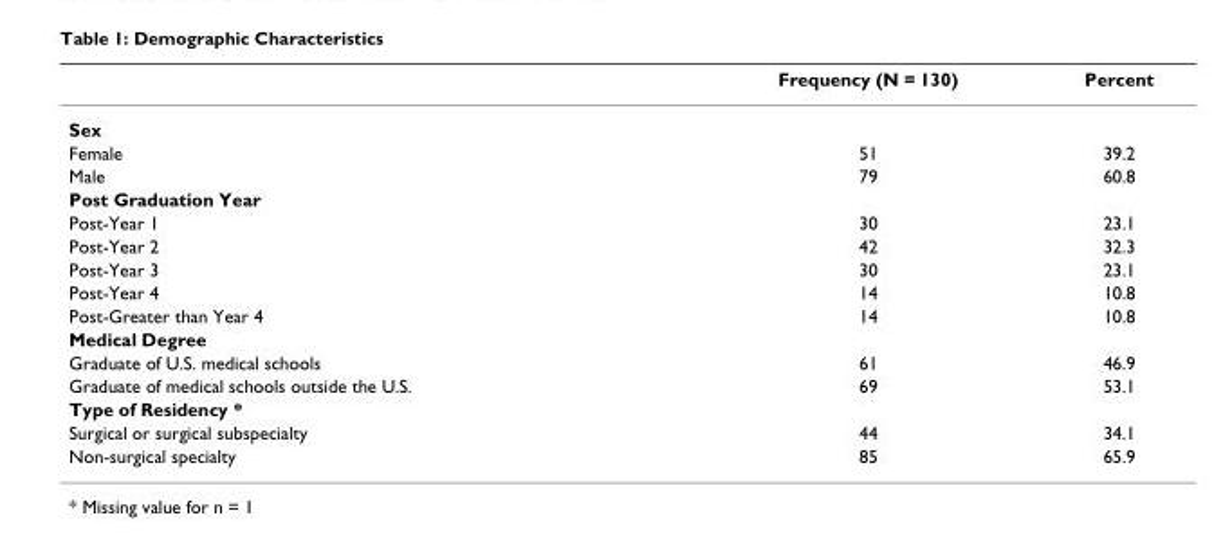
<table><thead><tr><td></td><td>Frequency (N = 130)</td><td>Percent</td></tr></thead><tbody><tr><td colspan="3">Sex</td></tr><tr><td>Female</td><td>51</td><td>39.2</td></tr><tr><td>Male</td><td>79</td><td>60.8</td></tr><tr><td colspan="3">Post Graduation Year</td></tr><tr><td>Post-Year 1</td><td>30</td><td>23.1</td></tr><tr><td>Post-Year 2</td><td>42</td><td>32.3</td></tr><tr><td>Post-Year 3</td><td>30</td><td>23.1</td></tr><tr><td>Post-Year 4</td><td>14</td><td>10.8</td></tr><tr><td>Post-Greater than Year 4</td><td>14</td><td>10.8</td></tr><tr><td colspan="3">Medical Degree</td></tr><tr><td>Graduate of U.S. medical schools</td><td>61</td><td>46.9</td></tr><tr><td>Graduate of medical schools outside the U.S.</td><td>69</td><td>53.1</td></tr><tr><td colspan="3">Type of Residency *</td></tr><tr><td>Surgical or surgical subspecialty</td><td>44</td><td>34.1</td></tr><tr><td>Non-surgical specialty</td><td>85</td><td>65.9</td></tr></tbody></table>